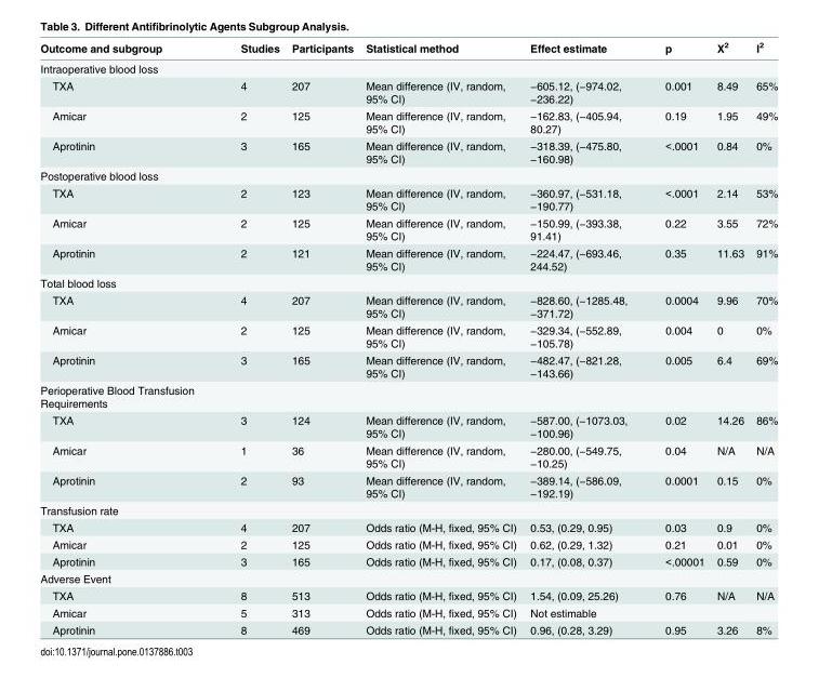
<table><thead><tr><td>Outcome and subgroup</td><td>Studies</td><td>Participants</td><td>Statistical method</td><td>Effect estimate</td><td>p</td><td>X<sup>2</sup></td><td>I<sup>2</sup></td></tr></thead><tbody><tr><td colspan="8">Intraoperative blood loss</td></tr><tr><td>TXA</td><td>4</td><td>207</td><td>Mean difference (IV, random, 95% CI)</td><td>−605.12, (−974.02, −236.22)</td><td>0.001</td><td>8.49</td><td>65%</td></tr><tr><td>Amicar</td><td>2</td><td>125</td><td>Mean difference (IV, random, 95% CI)</td><td>−162.83, (−405.94, 80.27)</td><td>0.19</td><td>1.95</td><td>49%</td></tr><tr><td>Aprotinin</td><td>3</td><td>165</td><td>Mean difference (IV, random, 95% CI)</td><td>−318.39, (−475.80, −160.98)</td><td>&lt;.0001</td><td>0.84</td><td>0%</td></tr><tr><td colspan="8">Postoperative blood loss</td></tr><tr><td>TXA</td><td>2</td><td>123</td><td>Mean difference (IV, random, 95% CI)</td><td>−360.97, (−531.18, −190.77)</td><td>&lt;.0001</td><td>2.14</td><td>53%</td></tr><tr><td>Amicar</td><td>2</td><td>125</td><td>Mean difference (IV, random, 95% CI)</td><td>−150.99, (−393.38, 91.41)</td><td>0.22</td><td>3.55</td><td>72%</td></tr><tr><td>Aprotinin</td><td>2</td><td>121</td><td>Mean difference (IV, random, 95% CI)</td><td>−224.47, (−693.46, 244.52)</td><td>0.35</td><td>11.63</td><td>91%</td></tr><tr><td colspan="8">Total blood loss</td></tr><tr><td>TXA</td><td>4</td><td>207</td><td>Mean difference (IV, random, 95% CI)</td><td>−828.60, (−1285.48, −371.72)</td><td>0.0004</td><td>9.96</td><td>70%</td></tr><tr><td>Amicar</td><td>2</td><td>125</td><td>Mean difference (IV, random, 95% CI)</td><td>−329.34, (−552.89, −105.78)</td><td>0.004</td><td>0</td><td>0%</td></tr><tr><td>Aprotinin</td><td>3</td><td>165</td><td>Mean difference (IV, random, 95% CI)</td><td>−482.47, (−821.28, −143.66)</td><td>0.005</td><td>6.4</td><td>69%</td></tr><tr><td colspan="8">Perioperative Blood Transfusion Requirements</td></tr><tr><td>TXA</td><td>3</td><td>124</td><td>Mean difference (IV, random, 95% CI)</td><td>−587.00, (−1073.03, −100.96)</td><td>0.02</td><td>14.26</td><td>86%</td></tr><tr><td>Amicar</td><td>1</td><td>36</td><td>Mean difference (IV, random, 95% CI)</td><td>−280.00, (−549.75, −10.25)</td><td>0.04</td><td>N/A</td><td>N/A</td></tr><tr><td>Aprotinin</td><td>2</td><td>93</td><td>Mean difference (IV, random, 95% CI)</td><td>−389.14, (−586.09, −192.19)</td><td>0.0001</td><td>0.15</td><td>0%</td></tr><tr><td colspan="8">Transfusion rate</td></tr><tr><td>TXA</td><td>4</td><td>207</td><td>Odds ratio (M-H, fixed, 95% CI)</td><td>0.53, (0.29, 0.95)</td><td>0.03</td><td>0.9</td><td>0%</td></tr><tr><td>Amicar</td><td>2</td><td>125</td><td>Odds ratio (M-H, fixed, 95% CI)</td><td>0.62, (0.29, 1.32)</td><td>0.21</td><td>0.01</td><td>0%</td></tr><tr><td>Aprotinin</td><td>3</td><td>165</td><td>Odds ratio (M-H, fixed, 95% CI)</td><td>0.17, (0.08, 0.37)</td><td>&lt;.00001</td><td>0.59</td><td>0%</td></tr><tr><td colspan="8">Adverse Event</td></tr><tr><td>TXA</td><td>8</td><td>513</td><td>Odds ratio (M-H, fixed, 95% CI)</td><td>1.54, (0.09, 25.26)</td><td>0.76</td><td>N/A</td><td>N/A</td></tr><tr><td>Amicar</td><td>5</td><td>313</td><td>Odds ratio (M-H, fixed, 95% CI)</td><td>Not estimable</td><td></td><td></td><td></td></tr><tr><td>Aprotinin</td><td>8</td><td>469</td><td>Odds ratio (M-H, fixed, 95% CI)</td><td>0.96, (0.28, 3.29)</td><td>0.95</td><td>3.26</td><td>8%</td></tr></tbody></table>